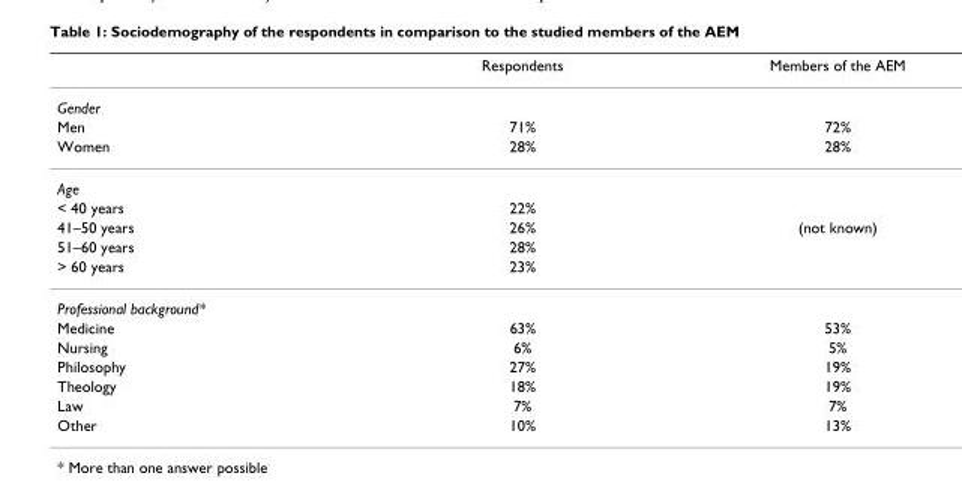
<table><thead><tr><td></td><td>Respondents</td><td>Members of the AEM</td></tr></thead><tbody><tr><td colspan="3">Gender</td></tr><tr><td>Men</td><td>71%</td><td>72%</td></tr><tr><td>Women</td><td>28%</td><td>28%</td></tr><tr><td colspan="3">Age</td></tr><tr><td>&lt; 40 years</td><td>22%</td><td></td></tr><tr><td>41–50 years</td><td>26%</td><td>(not known)</td></tr><tr><td>51–60 years</td><td>28%</td><td></td></tr><tr><td>&gt; 60 years</td><td>23%</td><td></td></tr><tr><td colspan="3">Professional background*</td></tr><tr><td>Medicine</td><td>63%</td><td>53%</td></tr><tr><td>Nursing</td><td>6%</td><td>5%</td></tr><tr><td>Philosophy</td><td>27%</td><td>19%</td></tr><tr><td>Theology</td><td>18%</td><td>19%</td></tr><tr><td>Law</td><td>7%</td><td>7%</td></tr><tr><td>Other</td><td>10%</td><td>13%</td></tr></tbody></table>